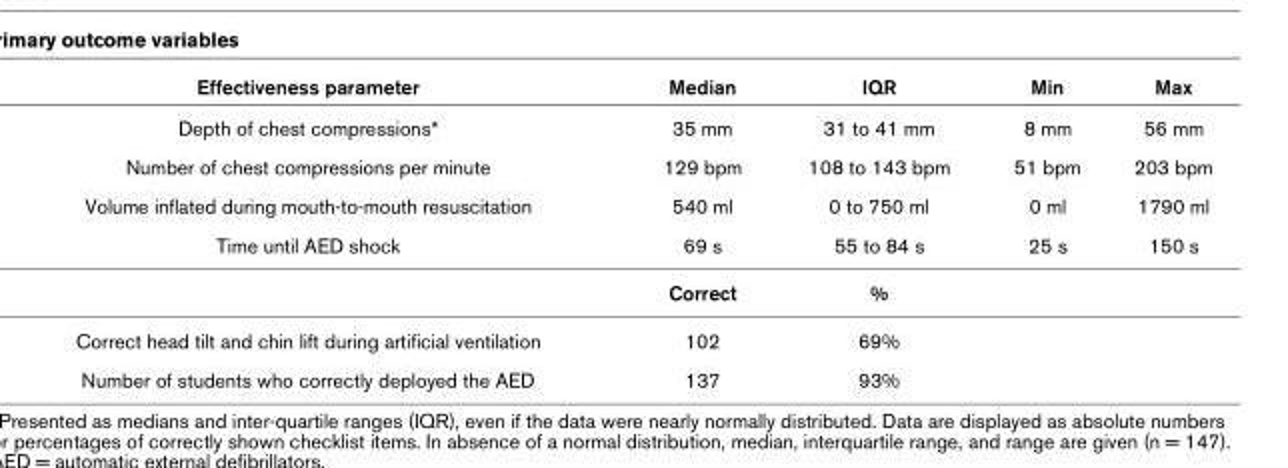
<table><thead><tr><td>Effectiveness parameter</td><td>Median</td><td>IQR</td><td>Min</td><td>Max</td></tr></thead><tbody><tr><td>Depth of chest compressions*</td><td>35 mm</td><td>31 to 41 mm</td><td>8 mm</td><td>56 mm</td></tr><tr><td>Number of chest compressions per minute</td><td>129 bpm</td><td>108 to 143 bpm</td><td>51 bpm</td><td>203 bpm</td></tr><tr><td>Volume inflated during mouth-to-mouth resuscitation</td><td>540 ml</td><td>0 to 750 ml</td><td>0 ml</td><td>1790 ml</td></tr><tr><td rowspan="2">Time until AED shock</td><td>69 s</td><td>55 to 84 s</td><td>25 s</td><td>150 s</td></tr><tr><td>Correct</td><td>%</td><td></td><td></td></tr><tr><td>Correct head tilt and chin lift during artificial ventilation</td><td>102</td><td>69%</td><td></td><td></td></tr><tr><td>Number of students who correctly deployed the AED</td><td>137</td><td>93%</td><td></td><td></td></tr></tbody></table>